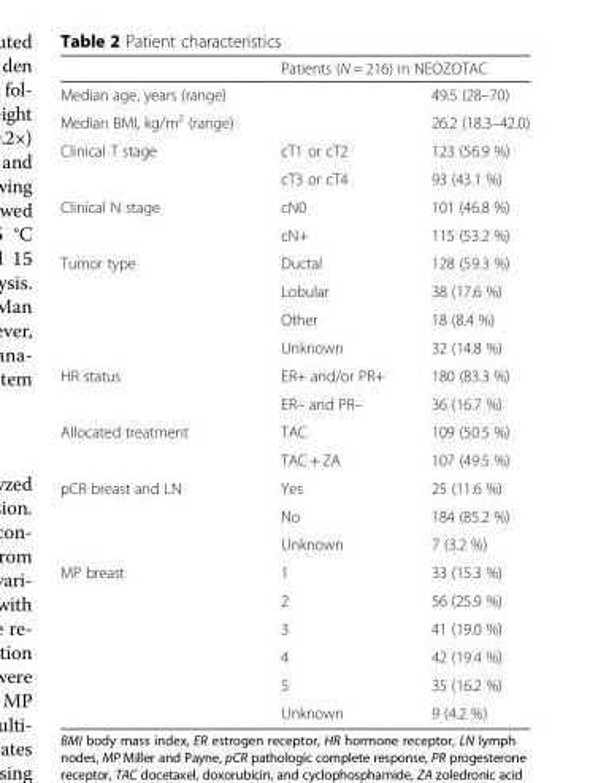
<table><thead><tr><td rowspan="2">Median age, years (range)</td><td colspan="2">Patients (N = 216) in NEOZOTAC</td></tr><tr><td></td><td>49.5 (28–70)</td></tr></thead><tbody><tr><td>Median BMI, kg/m<sup>2</sup> (range)</td><td></td><td>26.2 (18.3–42.0)</td></tr><tr><td rowspan="2">Clinical T stage</td><td>cT1 or cT2</td><td>123 (56.9 %)</td></tr><tr><td>cT3 or cT4</td><td>93 (43.1 %)</td></tr><tr><td rowspan="2">Clinical N stage</td><td>cN0</td><td>101 (46.8 %)</td></tr><tr><td>cN+</td><td>115 (53.2 %)</td></tr><tr><td rowspan="4">Tumor type</td><td>Ductal</td><td>128 (59.3 %)</td></tr><tr><td>Lobular</td><td>38 (17.6 %)</td></tr><tr><td>Other</td><td>18 (8.4 %)</td></tr><tr><td>Unknown</td><td>32 (14.8 %)</td></tr><tr><td rowspan="2">HR status</td><td>ER+ and/or PR+</td><td>180 (83.3 %)</td></tr><tr><td>ER– and PR–</td><td>36 (16.7 %)</td></tr><tr><td rowspan="2">Allocated treatment</td><td>TAC</td><td>109 (50.5 %)</td></tr><tr><td>TAC + ZA</td><td>107 (49.5 %)</td></tr><tr><td rowspan="3">pCR breast and LN</td><td>Yes</td><td>25 (11.6 %)</td></tr><tr><td>No</td><td>184 (85.2 %)</td></tr><tr><td>Unknown</td><td>7 (3.2 %)</td></tr><tr><td rowspan="6">MP breast</td><td>1</td><td>33 (15.3 %)</td></tr><tr><td>2</td><td>56 (25.9 %)</td></tr><tr><td>3</td><td>41 (19.0 %)</td></tr><tr><td>4</td><td>42 (19.4 %)</td></tr><tr><td>5</td><td>35 (16.2 %)</td></tr><tr><td>Unknown</td><td>9 (4.2 %)</td></tr></tbody></table>